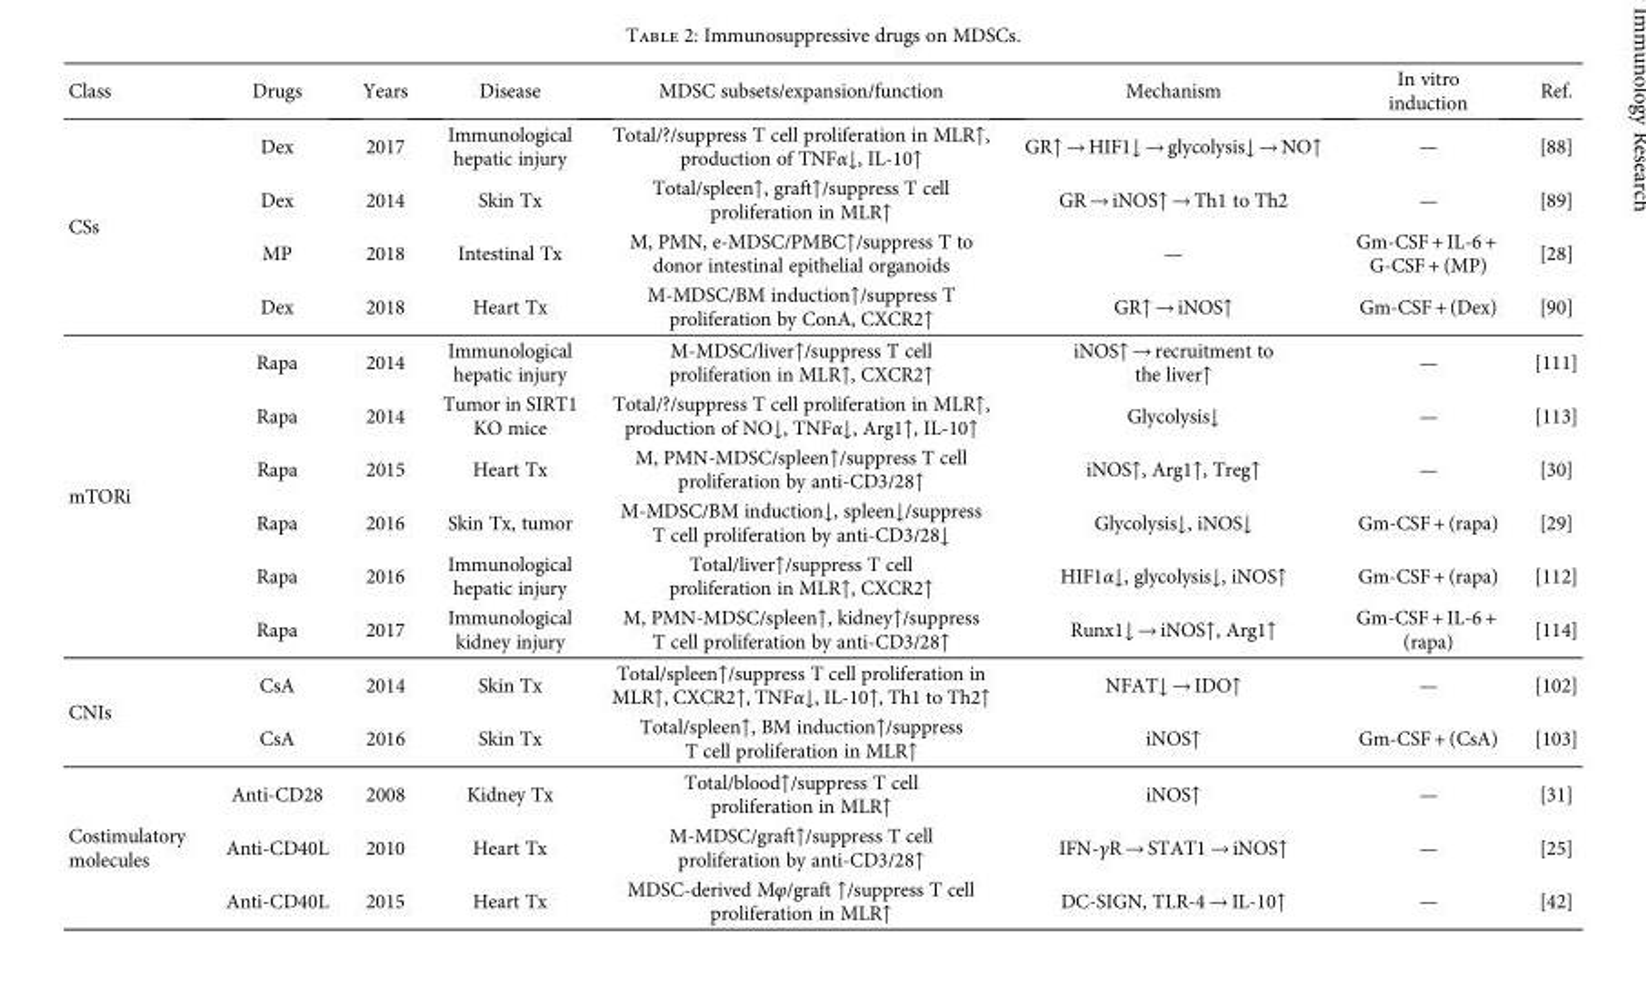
<table><thead><tr><td>Class</td><td>Drugs</td><td>Years</td><td>Disease</td><td>MDSC subsets/expansion/function</td><td>Mechanism</td><td>In vitro induction</td><td>Ref.</td></tr></thead><tbody><tr><td rowspan="4">CSs</td><td>Dex</td><td>2017</td><td>Immunological hepatic injury</td><td>Total/?/suppress T cell proliferation in MLR↑, production of TNFα↓, IL-10↑</td><td>GR↑ → HIF1↓ → glycolysis↓ → NO↑</td><td>—</td><td>[88]</td></tr><tr><td>Dex</td><td>2014</td><td>Skin Tx</td><td>Total/spleen↑, graft↑/suppress T cell proliferation in MLR↑</td><td>GR → iNOS↑ → Th1 to Th2</td><td>—</td><td>[89]</td></tr><tr><td>MP</td><td>2018</td><td>Intestinal Tx</td><td>M, PMN, e-MDSC/PMBC↑/suppress T to donor intestinal epithelial organoids</td><td>—</td><td>Gm-CSF + IL-6 + G-CSF + (MP)</td><td>[28]</td></tr><tr><td>Dex</td><td>2018</td><td>Heart Tx</td><td>M-MDSC/BM induction↑/suppress T proliferation by ConA, CXCR2↑</td><td>GR↑ → iNOS↑</td><td>Gm-CSF + (Dex)</td><td>[90]</td></tr><tr><td rowspan="6">mTORi</td><td>Rapa</td><td>2014</td><td>Immunological hepatic injury</td><td>M-MDSC/liver↑/suppress T cell proliferation in MLR↑, CXCR2↑</td><td>iNOS↑ → recruitment to the liver↑</td><td>—</td><td>[111]</td></tr><tr><td>Rapa</td><td>2014</td><td>Tumor in SIRT1 KO mice</td><td>Total/?/suppress T cell proliferation in MLR↑, production of NO↓, TNFα↓, Arg1↑, IL-10↑</td><td>Glycolysis↓</td><td>—</td><td>[113]</td></tr><tr><td>Rapa</td><td>2015</td><td>Heart Tx</td><td>M, PMN-MDSC/spleen↑/suppress T cell proliferation by anti-CD3/28↑</td><td>iNOS↑, Arg1↑, Treg↑</td><td>—</td><td>[30]</td></tr><tr><td>Rapa</td><td>2016</td><td>Skin Tx, tumor</td><td>M-MDSC/BM induction↓, spleen↓/suppress T cell proliferation by anti-CD3/28↓</td><td>Glycolysis↓, iNOS↓</td><td>Gm-CSF + (rapa)</td><td>[29]</td></tr><tr><td>Rapa</td><td>2016</td><td>Immunological hepatic injury</td><td>Total/liver↑/suppress T cell proliferation in MLR↑, CXCR2↑</td><td>HIF1α↓, glycolysis↓, iNOS↑</td><td>Gm-CSF + (rapa)</td><td>[112]</td></tr><tr><td>Rapa</td><td>2017</td><td>Immunological kidney injury</td><td>M, PMN-MDSC/spleen↑, kidney↑/suppress T cell proliferation by anti-CD3/28↑</td><td>Runx1↓ → iNOS↑, Arg1↑</td><td>Gm-CSF + IL-6 + (rapa)</td><td>[114]</td></tr><tr><td rowspan="2">CNIs</td><td>CsA</td><td>2014</td><td>Skin Tx</td><td>Total/spleen↑/suppress T cell proliferation in MLR↑, CXCR2↑, TNFα↓, IL-10↑, Th1 to Th2↑</td><td>NFAT↓ → IDO↑</td><td>—</td><td>[102]</td></tr><tr><td>CsA</td><td>2016</td><td>Skin Tx</td><td>Total/spleen↑, BM induction↑/suppress T cell proliferation in MLR↑</td><td>iNOS↑</td><td>Gm-CSF + (CsA)</td><td>[103]</td></tr><tr><td rowspan="3">Costimulatory molecules</td><td>Anti-CD28</td><td>2008</td><td>Kidney Tx</td><td>Total/blood↑/suppress T cell proliferation in MLR↑</td><td>iNOS↑</td><td>—</td><td>[31]</td></tr><tr><td>Anti-CD40L</td><td>2010</td><td>Heart Tx</td><td>M-MDSC/graft↑/suppress T cell proliferation by anti-CD3/28↑</td><td>IFN-γR → STAT1 → iNOS↑</td><td>—</td><td>[25]</td></tr><tr><td>Anti-CD40L</td><td>2015</td><td>Heart Tx</td><td>MDSC-derived Mφ/graft ↑/suppress T cell proliferation in MLR↑</td><td>DC-SIGN, TLR-4 → IL-10↑</td><td>—</td><td>[42]</td></tr></tbody></table>